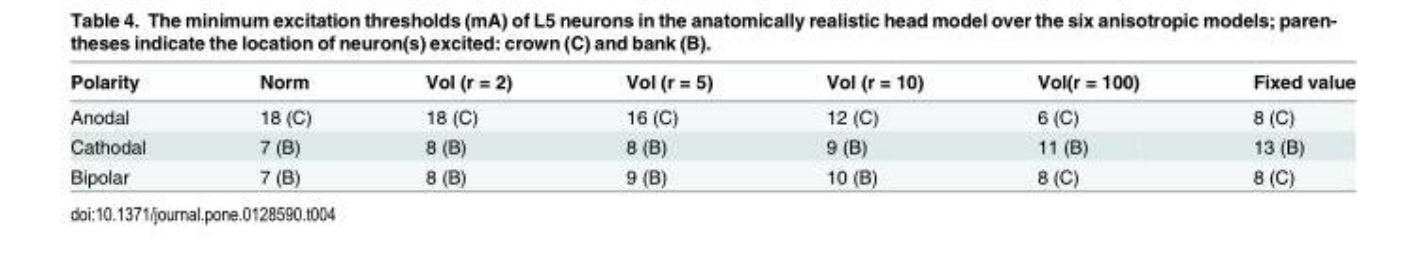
<table><thead><tr><td>Polarity</td><td>Norm</td><td>Vol (r = 2)</td><td>Vol (r = 5)</td><td>Vol (r = 10)</td><td>Vol(r = 100)</td><td>Fixed value</td></tr></thead><tbody><tr><td>Anodal</td><td>18 (C)</td><td>18 (C)</td><td>16 (C)</td><td>12 (C)</td><td>6 (C)</td><td>8 (C)</td></tr><tr><td>Cathodal</td><td>7 (B)</td><td>8 (B)</td><td>8 (B)</td><td>9 (B)</td><td>11 (B)</td><td>13 (B)</td></tr><tr><td>Bipolar</td><td>7 (B)</td><td>8 (B)</td><td>9 (B)</td><td>10 (B)</td><td>8 (C)</td><td>8 (C)</td></tr></tbody></table>